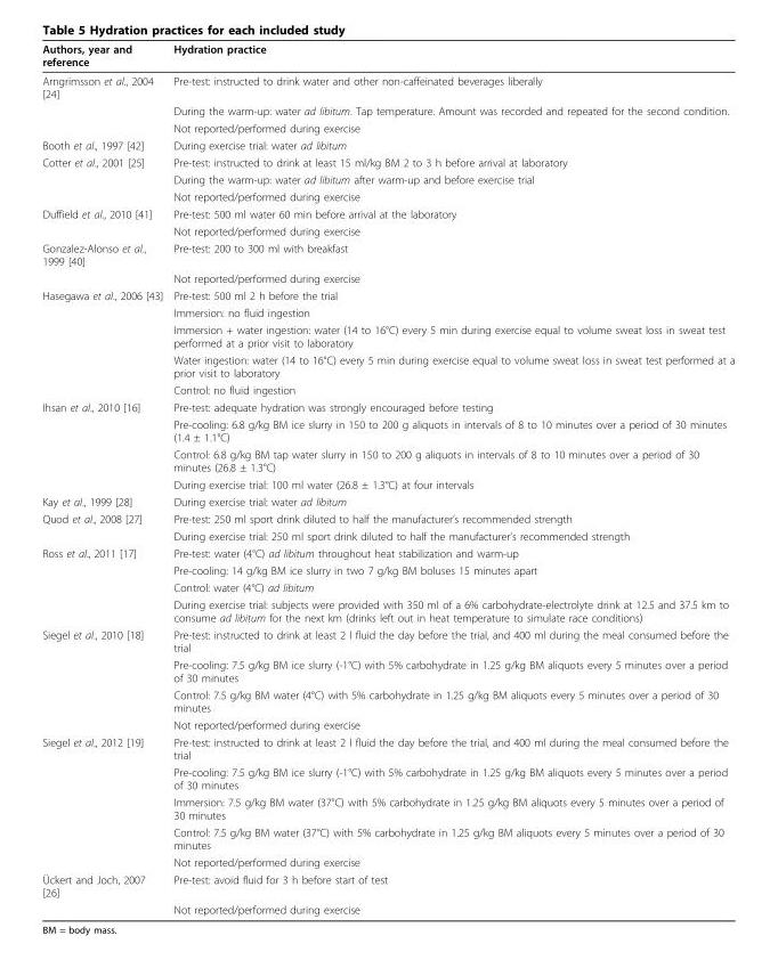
<table><thead><tr><td>Authors, year and reference</td><td>Hydration practice</td></tr></thead><tbody><tr><td rowspan="3">Arngrïmsson et al., 2004 [24]</td><td>Pre-test: instructed to drink water and other non-caffeinated beverages liberally</td></tr><tr><td>During the warm-up: water ad libitum. Tap temperature. Amount was recorded and repeated for the second condition.</td></tr><tr><td>Not reported/performed during exercise</td></tr><tr><td>Booth et al., 1997 [42]</td><td>During exercise trial: water ad libitum</td></tr><tr><td rowspan="3">Cotter et al., 2001 [25]</td><td>Pre-test: instructed to drink at least 15 ml/kg BM 2 to 3 h before arrival at laboratory</td></tr><tr><td>During the warm-up: water ad libitum after warm-up and before exercise trial</td></tr><tr><td>Not reported/performed during exercise</td></tr><tr><td rowspan="2">Duffield et al., 2010 [41]</td><td>Pre-test: 500 ml water 60 min before arrival at the laboratory</td></tr><tr><td>Not reported/performed during exercise</td></tr><tr><td rowspan="2">Gonzalez-Alonso et al., 1999 [40]</td><td>Pre-test: 200 to 300 ml with breakfast</td></tr><tr><td>Not reported/performed during exercise</td></tr><tr><td rowspan="5">Hasegawa et al., 2006 [43]</td><td>Pre-test: 500 ml 2 h before the trial</td></tr><tr><td>Immersion: no fluid ingestion</td></tr><tr><td>Immersion + water ingestion: water (14 to 16°C) every 5 min during exercise equal to volume sweat loss in sweat test performed at a prior visit to laboratory</td></tr><tr><td>Water ingestion: water (14 to 16°C) every 5 min during exercise equal to volume sweat loss in sweat test performed at a prior visit to laboratory</td></tr><tr><td>Control: no fluid ingestion</td></tr><tr><td rowspan="4">Ihsan et al., 2010 [16]</td><td>Pre-test: adequate hydration was strongly encouraged before testing</td></tr><tr><td>Pre-cooling: 6.8 g/kg BM ice slurry in 150 to 200 g aliquots in intervals of 8 to 10 minutes over a period of 30 minutes (1.4 ± 1.1°C)</td></tr><tr><td>Control: 6.8 g/kg BM tap water slurry in 150 to 200 g aliquots in intervals of 8 to 10 minutes over a period of 30 minutes (26.8 ± 1.3°C)</td></tr><tr><td>During exercise trial: 100 ml water (26.8 ± 1.3°C) at four intervals</td></tr><tr><td>Kay et al., 1999 [28]</td><td>During exercise trial: water ad libitum</td></tr><tr><td rowspan="2">Quod et al., 2008 [27]</td><td>Pre-test: 250 ml sport drink diluted to half the manufacturer’s recommended strength</td></tr><tr><td>During exercise trial: 250 ml sport drink diluted to half the manufacturer’s recommended strength</td></tr><tr><td rowspan="4">Ross et al., 2011 [17]</td><td>Pre-test: water (4°C) ad libitum throughout heat stabilization and warm-up</td></tr><tr><td>Pre-cooling: 14 g/kg BM ice slurry in two 7 g/kg BM boluses 15 minutes apart</td></tr><tr><td>Control: water (4°C) ad libitum</td></tr><tr><td>During exercise trial: subjects were provided with 350 ml of a 6% carbohydrate-electrolyte drink at 12.5 and 37.5 km to consume ad libitum for the next km (drinks left out in heat temperature to simulate race conditions)</td></tr><tr><td rowspan="4">Siegel et al., 2010 [18]</td><td>Pre-test: instructed to drink at least 2 l fluid the day before the trial, and 400 ml during the meal consumed before the trial</td></tr><tr><td>Pre-cooling: 7.5 g/kg BM ice slurry (-1°C) with 5% carbohydrate in 1.25 g/kg BM aliquots every 5 minutes over a period of 30 minutes</td></tr><tr><td>Control: 7.5 g/kg BM water (4°C) with 5% carbohydrate in 1.25 g/kg BM aliquots every 5 minutes over a period of 30 minutes</td></tr><tr><td>Not reported/performed during exercise</td></tr><tr><td rowspan="5">Siegel et al., 2012 [19]</td><td>Pre-test: instructed to drink at least 2 l fluid the day before the trial, and 400 ml during the meal consumed before the trial</td></tr><tr><td>Pre-cooling: 7.5 g/kg BM ice slurry (-1°C) with 5% carbohydrate in 1.25 g/kg BM aliquots every 5 minutes over a period of 30 minutes</td></tr><tr><td>Immersion: 7.5 g/kg BM water (37°C) with 5% carbohydrate in 1.25 g/kg BM aliquots every 5 minutes over a period of 30 minutes</td></tr><tr><td>Control: 7.5 g/kg BM water (37°C) with 5% carbohydrate in 1.25 g/kg BM aliquots every 5 minutes over a period of 30 minutes</td></tr><tr><td>Not reported/performed during exercise</td></tr><tr><td rowspan="2">Ückert and Joch, 2007 [26]</td><td>Pre-test: avoid fluid for 3 h before start of test</td></tr><tr><td>Not reported/performed during exercise</td></tr></tbody></table>